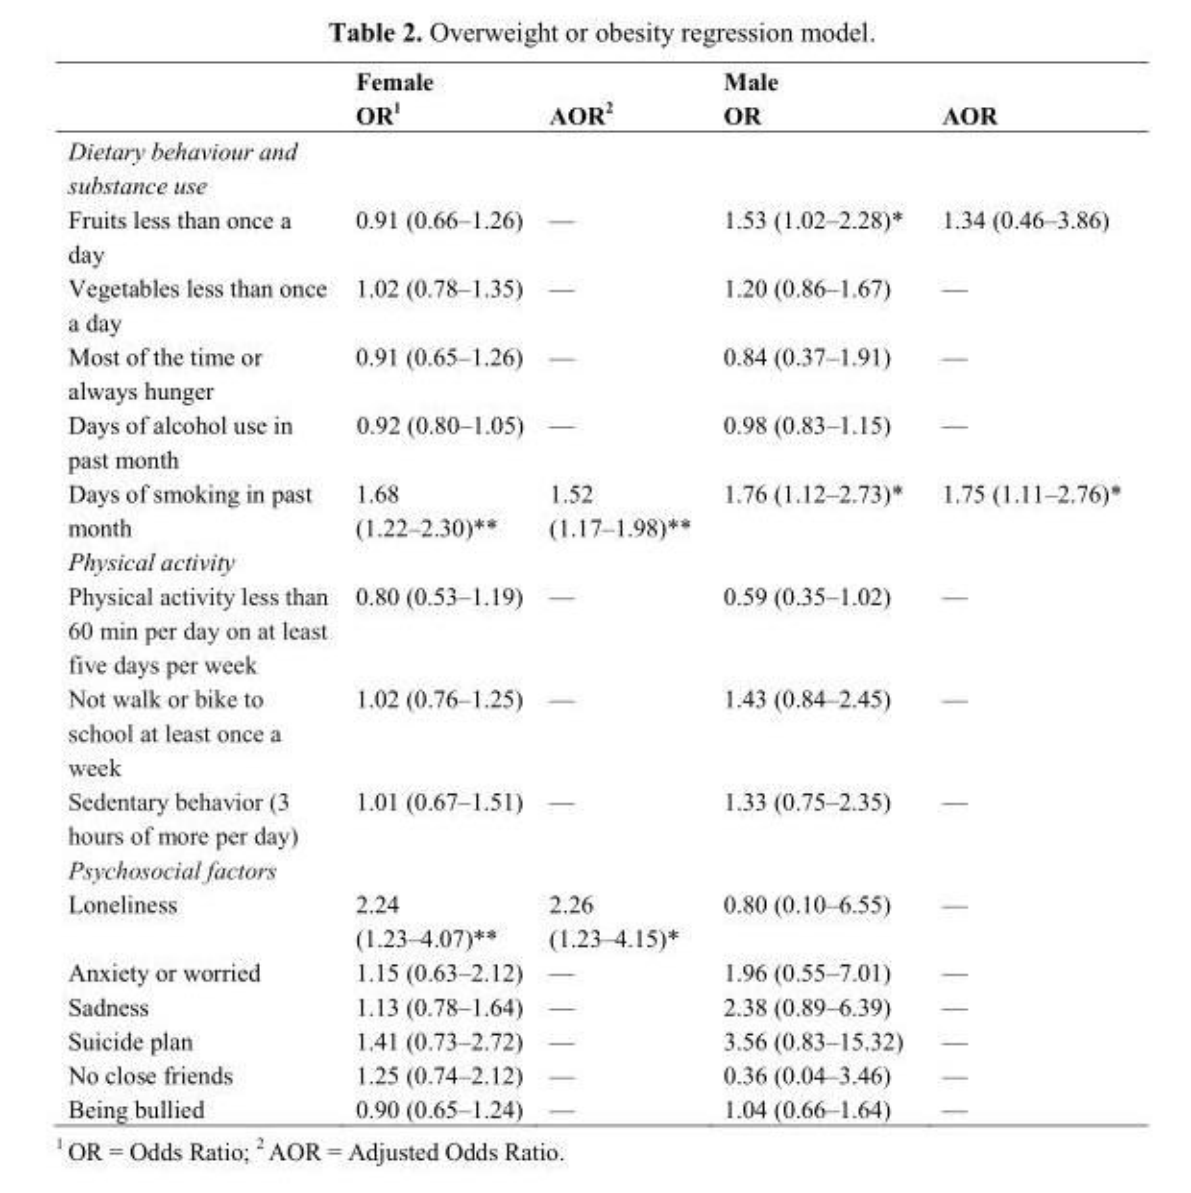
<table><thead><tr><td rowspan="2"></td><td colspan="2">Female</td><td colspan="2">Male</td></tr><tr><td>OR<sup>1</sup></td><td>AOR<sup>2</sup></td><td>OR</td><td>AOR</td></tr></thead><tbody><tr><td colspan="5">Dietary behaviour and substance use</td></tr><tr><td>Fruits less than once a day</td><td>0.91 (0.66–1.26)</td><td>—</td><td>1.53 (1.02–2.28)*</td><td>1.34 (0.46–3.86)</td></tr><tr><td>Vegetables less than once a day</td><td>1.02 (0.78–1.35)</td><td>—</td><td>1.20 (0.86–1.67)</td><td>—</td></tr><tr><td>Most of the time or always hunger</td><td>0.91 (0.65–1.26)</td><td>—</td><td>0.84 (0.37–1.91)</td><td>—</td></tr><tr><td>Days of alcohol use in past month</td><td>0.92 (0.80–1.05)</td><td>—</td><td>0.98 (0.83–1.15)</td><td>—</td></tr><tr><td>Days of smoking in past month</td><td>1.68 (1.22–2.30)**</td><td>1.52 (1.17–1.98)**</td><td>1.76 (1.12–2.73)*</td><td>1.75 (1.11–2.76)*</td></tr><tr><td colspan="5">Physical activity</td></tr><tr><td>Physical activity less than 60 min per day on at least five days per week</td><td>0.80 (0.53–1.19)</td><td>—</td><td>0.59 (0.35–1.02)</td><td>—</td></tr><tr><td>Not walk or bike to school at least once a week</td><td>1.02 (0.76–1.25)</td><td>—</td><td>1.43 (0.84–2.45)</td><td>—</td></tr><tr><td>Sedentary behavior (3 hours of more per day)</td><td>1.01 (0.67–1.51)</td><td>—</td><td>1.33 (0.75–2.35)</td><td>—</td></tr><tr><td colspan="5">Psychosocial factors</td></tr><tr><td>Loneliness</td><td>2.24 (1.23–4.07)**</td><td>2.26 (1.23–4.15)*</td><td>0.80 (0.10–6.55)</td><td>—</td></tr><tr><td>Anxiety or worried</td><td>1.15 (0.63–2.12)</td><td>—</td><td>1.96 (0.55–7.01)</td><td>—</td></tr><tr><td>Sadness</td><td>1.13 (0.78–1.64)</td><td>—</td><td>2.38 (0.89–6.39)</td><td>—</td></tr><tr><td>Suicide plan</td><td>1.41 (0.73–2.72)</td><td>—</td><td>3.56 (0.83–15.32)</td><td>—</td></tr><tr><td>No close friends</td><td>1.25 (0.74–2.12)</td><td>—</td><td>0.36 (0.04–3.46)</td><td>—</td></tr><tr><td>Being bullied</td><td>0.90 (0.65–1.24)</td><td>—</td><td>1.04 (0.66–1.64)</td><td>—</td></tr></tbody></table>